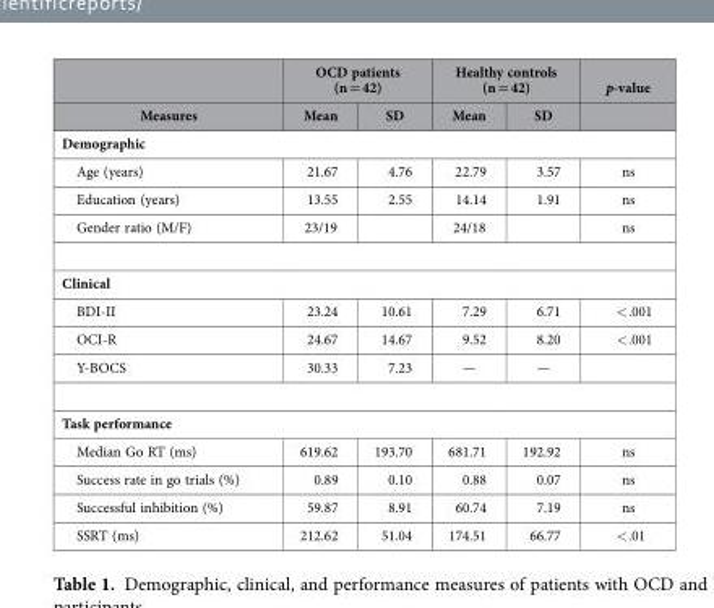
<table><thead><tr><td rowspan="2">Measures</td><td colspan="2">OCD patients (n = 42)</td><td colspan="2">Healthy controls (n = 42)</td><td rowspan="2">p-value</td></tr><tr><td>Mean</td><td>SD</td><td>Mean</td><td>SD</td></tr></thead><tbody><tr><td colspan="6">Demographic</td></tr><tr><td>Age (years)</td><td>21.67</td><td>4.76</td><td>22.79</td><td>3.57</td><td>ns</td></tr><tr><td>Education (years)</td><td>13.55</td><td>2.55</td><td>14.14</td><td>1.91</td><td>ns</td></tr><tr><td>Gender ratio (M/F)</td><td>23/19</td><td></td><td>24/18</td><td></td><td>ns</td></tr><tr><td colspan="6">Clinical</td></tr><tr><td>BDI-II</td><td>23.24</td><td>10.61</td><td>7.29</td><td>6.71</td><td>&lt; .001</td></tr><tr><td>OCI-R</td><td>24.67</td><td>14.67</td><td>9.52</td><td>8.20</td><td>&lt; .001</td></tr><tr><td>Y-BOCS</td><td>30.33</td><td>7.23</td><td>—</td><td>—</td><td></td></tr><tr><td colspan="6">Task performance</td></tr><tr><td>Median Go RT (ms)</td><td>619.62</td><td>193.70</td><td>681.71</td><td>192.92</td><td>ns</td></tr><tr><td>Success rate in go trials (%)</td><td>0.89</td><td>0.10</td><td>0.88</td><td>0.07</td><td>ns</td></tr><tr><td>Successful inhibition (%)</td><td>59.87</td><td>8.91</td><td>60.74</td><td>7.19</td><td>ns</td></tr><tr><td>SSRT (ms)</td><td>212.62</td><td>51.04</td><td>174.51</td><td>66.77</td><td>&lt; .01</td></tr></tbody></table>